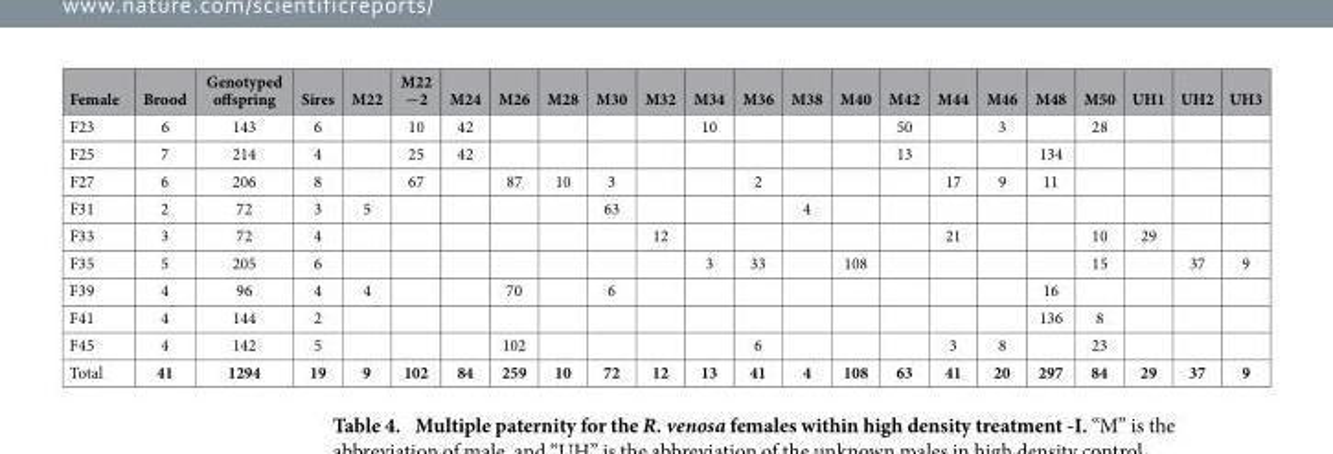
<table><thead><tr><td>Female</td><td>Brood</td><td>Genotyped offspring</td><td>Sires</td><td>M22</td><td>M22 −2</td><td>M24</td><td>M26</td><td>M28</td><td>M30</td><td>M32</td><td>M34</td><td>M36</td><td>M38</td><td>M40</td><td>M42</td><td>M44</td><td>M46</td><td>M48</td><td>M50</td><td>UH1</td><td>UH2</td><td>UH3</td></tr></thead><tbody><tr><td>F23</td><td>6</td><td>143</td><td>6</td><td></td><td>10</td><td>42</td><td></td><td></td><td></td><td></td><td>10</td><td></td><td></td><td></td><td>50</td><td></td><td>3</td><td></td><td>28</td><td></td><td></td><td></td></tr><tr><td>F25</td><td>7</td><td>214</td><td>4</td><td></td><td>25</td><td>42</td><td></td><td></td><td></td><td></td><td></td><td></td><td></td><td></td><td>13</td><td></td><td></td><td>134</td><td></td><td></td><td></td><td></td></tr><tr><td>F27</td><td>6</td><td>206</td><td>8</td><td></td><td>67</td><td></td><td>87</td><td>10</td><td>3</td><td></td><td></td><td>2</td><td></td><td></td><td></td><td>17</td><td>9</td><td>11</td><td></td><td></td><td></td><td></td></tr><tr><td>F31</td><td>2</td><td>72</td><td>3</td><td>5</td><td></td><td></td><td></td><td></td><td>63</td><td></td><td></td><td></td><td>4</td><td></td><td></td><td></td><td></td><td></td><td></td><td></td><td></td><td></td></tr><tr><td>F33</td><td>3</td><td>72</td><td>4</td><td></td><td></td><td></td><td></td><td></td><td></td><td>12</td><td></td><td></td><td></td><td></td><td></td><td>21</td><td></td><td></td><td>10</td><td>29</td><td></td><td></td></tr><tr><td>F35</td><td>5</td><td>205</td><td>6</td><td></td><td></td><td></td><td></td><td></td><td></td><td></td><td>3</td><td>33</td><td></td><td>108</td><td></td><td></td><td></td><td></td><td>15</td><td></td><td>37</td><td>9</td></tr><tr><td>F39</td><td>4</td><td>96</td><td>4</td><td>4</td><td></td><td></td><td>70</td><td></td><td>6</td><td></td><td></td><td></td><td></td><td></td><td></td><td></td><td></td><td>16</td><td></td><td></td><td></td><td></td></tr><tr><td>F41</td><td>4</td><td>144</td><td>2</td><td></td><td></td><td></td><td></td><td></td><td></td><td></td><td></td><td></td><td></td><td></td><td></td><td></td><td></td><td>136</td><td>8</td><td></td><td></td><td></td></tr><tr><td>F45</td><td>4</td><td>142</td><td>5</td><td></td><td></td><td></td><td>102</td><td></td><td></td><td></td><td></td><td>6</td><td></td><td></td><td></td><td>3</td><td>8</td><td></td><td>23</td><td></td><td></td><td></td></tr><tr><td>Total</td><td>41</td><td>1294</td><td>19</td><td>9</td><td>102</td><td>84</td><td>259</td><td>10</td><td>72</td><td>12</td><td>13</td><td>41</td><td>4</td><td>108</td><td>63</td><td>41</td><td>20</td><td>297</td><td>84</td><td>29</td><td>37</td><td>9</td></tr></tbody></table>